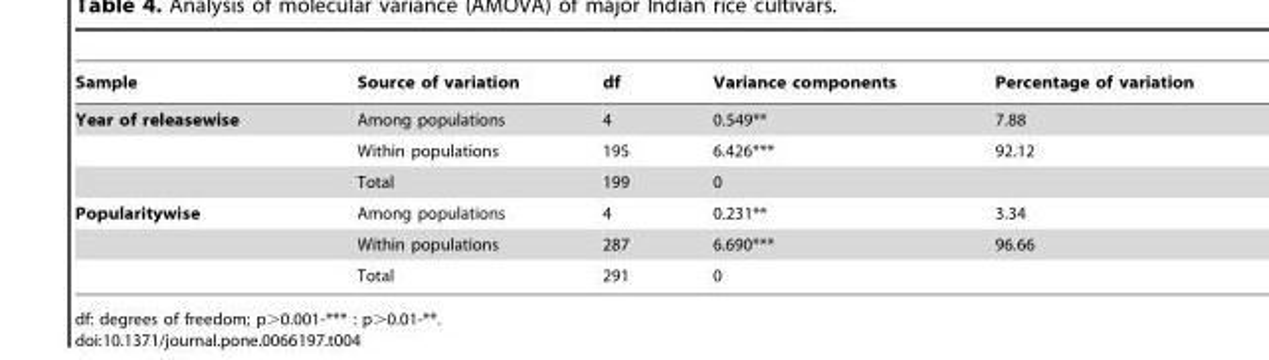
<table><thead><tr><td>Sample</td><td>Source of variation</td><td>df</td><td>Variance components</td><td>Percentage of variation</td></tr></thead><tbody><tr><td rowspan="3">Year of releasewise</td><td>Among populations</td><td>4</td><td>0.549**</td><td>7.88</td></tr><tr><td>Within populations</td><td>195</td><td>6.426***</td><td>92.12</td></tr><tr><td>Total</td><td>199</td><td>0</td><td></td></tr><tr><td rowspan="3">Popularitywise</td><td>Among populations</td><td>4</td><td>0.231**</td><td>3.34</td></tr><tr><td>Within populations</td><td>287</td><td>6.690***</td><td>96.66</td></tr><tr><td>Total</td><td>291</td><td>0</td><td></td></tr></tbody></table>